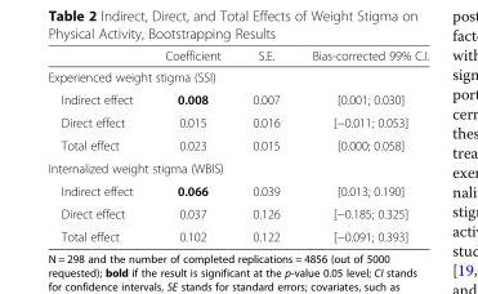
<table><thead><tr><td></td><td>Coefficient</td><td>S.E.</td><td>Bias-corrected 99% C.I.</td></tr></thead><tbody><tr><td colspan="4">Experienced weight stigma (SSI)</td></tr><tr><td>Indirect effect</td><td>0.008</td><td>0.007</td><td>[0.001; 0.030]</td></tr><tr><td>Direct effect</td><td>0.015</td><td>0.016</td><td>[−0.011; 0.053]</td></tr><tr><td>Total effect</td><td>0.023</td><td>0.015</td><td>[0.000; 0.058]</td></tr><tr><td colspan="4">Internalized weight stigma (WBIS)</td></tr><tr><td>Indirect effect</td><td>0.066</td><td>0.039</td><td>[0.013; 0.190]</td></tr><tr><td>Direct effect</td><td>0.037</td><td>0.126</td><td>[−0.185; 0.325]</td></tr><tr><td>Total effect</td><td>0.102</td><td>0.122</td><td>[−0.091; 0.393]</td></tr></tbody></table>